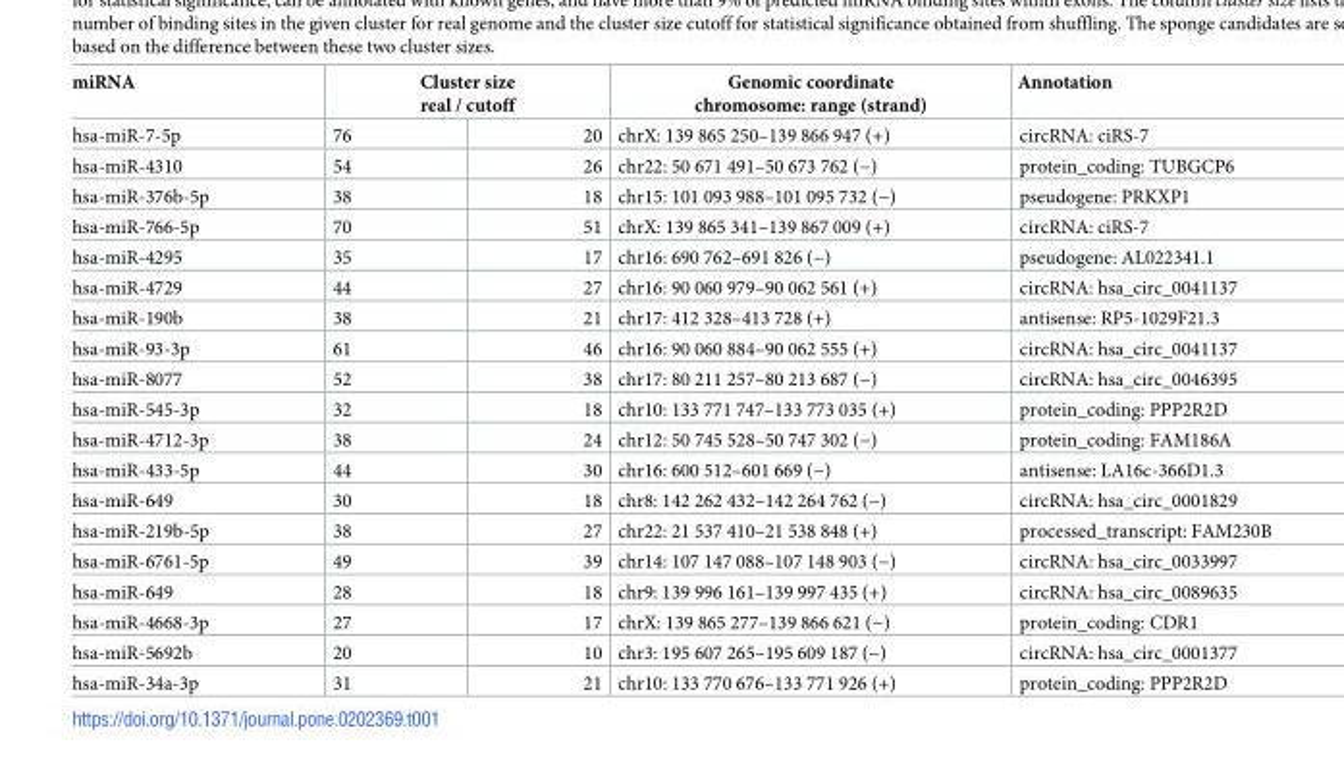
<table><thead><tr><td rowspan="2">miRNA hsa-miR-7-5p</td><td colspan="2">Cluster size real / cutoff</td><td rowspan="2">Genomic coordinate chromosome: range (strand) chrX: 139 865 250–139 866 947 (+)</td><td rowspan="2">Annotation circRNA: ciRS-7</td></tr><tr><td>76</td><td>20</td></tr></thead><tbody><tr><td>hsa-miR-4310</td><td>54</td><td>26</td><td>chr22: 50 671 491–50 673 762 (−)</td><td>protein_coding: TUBGCP6</td></tr><tr><td>hsa-miR-376b-5p</td><td>38</td><td>18</td><td>chr15: 101 093 988–101 095 732 (−)</td><td>pseudogene: PRKXP1</td></tr><tr><td>hsa-miR-766-5p</td><td>70</td><td>51</td><td>chrX: 139 865 341–139 867 009 (+)</td><td>circRNA: ciRS-7</td></tr><tr><td>hsa-miR-4295</td><td>35</td><td>17</td><td>chr16: 690 762–691 826 (−)</td><td>pseudogene: AL022341.1</td></tr><tr><td>hsa-miR-4729</td><td>44</td><td>27</td><td>chr16: 90 060 979–90 062 561 (+)</td><td>circRNA: hsa_circ_0041137</td></tr><tr><td>hsa-miR-190b</td><td>38</td><td>21</td><td>chr17: 412 328–413 728 (+)</td><td>antisense: RP5-1029F21.3</td></tr><tr><td>hsa-miR-93-3p</td><td>61</td><td>46</td><td>chr16: 90 060 884–90 062 555 (+)</td><td>circRNA: hsa_circ_0041137</td></tr><tr><td>hsa-miR-8077</td><td>52</td><td>38</td><td>chr17: 80 211 257–80 213 687 (−)</td><td>circRNA: hsa_circ_0046395</td></tr><tr><td>hsa-miR-545-3p</td><td>32</td><td>18</td><td>chr10: 133 771 747–133 773 035 (+)</td><td>protein_coding: PPP2R2D</td></tr><tr><td>hsa-miR-4712-3p</td><td>38</td><td>24</td><td>chr12: 50 745 528–50 747 302 (−)</td><td>protein_coding: FAM186A</td></tr><tr><td>hsa-miR-433-5p</td><td>44</td><td>30</td><td>chr16: 600 512–601 669 (−)</td><td>antisense: LA16c-366D1.3</td></tr><tr><td>hsa-miR-649</td><td>30</td><td>18</td><td>chr8: 142 262 432–142 264 762 (−)</td><td>circRNA: hsa_circ_0001829</td></tr><tr><td>hsa-miR-219b-5p</td><td>38</td><td>27</td><td>chr22: 21 537 410–21 538 848 (+)</td><td>processed_transcript: FAM230B</td></tr><tr><td>hsa-miR-6761-5p</td><td>49</td><td>39</td><td>chr14: 107 147 088–107 148 903 (−)</td><td>circRNA: hsa_circ_0033997</td></tr><tr><td>hsa-miR-649</td><td>28</td><td>18</td><td>chr9: 139 996 161–139 997 435 (+)</td><td>circRNA: hsa_circ_0089635</td></tr><tr><td>hsa-miR-4668-3p</td><td>27</td><td>17</td><td>chrX: 139 865 277–139 866 621 (−)</td><td>protein_coding: CDR1</td></tr><tr><td>hsa-miR-5692b</td><td>20</td><td>10</td><td>chr3: 195 607 265–195 609 187 (−)</td><td>circRNA: hsa_circ_0001377</td></tr><tr><td>hsa-miR-34a-3p</td><td>31</td><td>21</td><td>chr10: 133 770 676–133 771 926 (+)</td><td>protein_coding: PPP2R2D</td></tr></tbody></table>